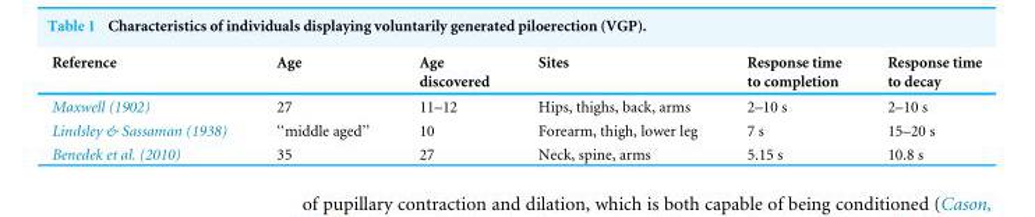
<table><thead><tr><td>Reference</td><td>Age</td><td>Age discovered</td><td>Sites</td><td>Response time to completion</td><td>Response time to decay</td></tr></thead><tbody><tr><td>Maxwell (1902)</td><td>27</td><td>11–12</td><td>Hips, thighs, back, arms</td><td>2–10 s</td><td>2–10 s</td></tr><tr><td>Lindsley &amp; Sassaman (1938)</td><td>‘‘middle aged’’</td><td>10</td><td>Forearm, thigh, lower leg</td><td>7 s</td><td>15–20 s</td></tr><tr><td>Benedek et al. (2010)</td><td>35</td><td>27</td><td>Neck, spine, arms</td><td>5.15 s</td><td>10.8 s</td></tr></tbody></table>